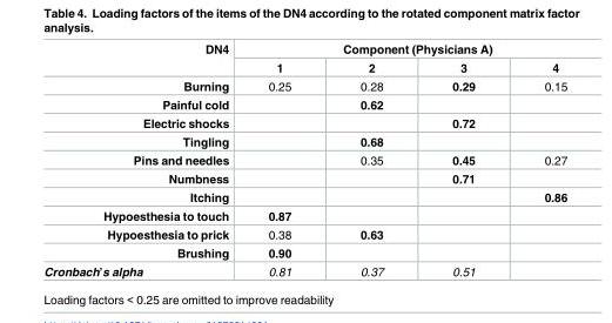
<table><thead><tr><td rowspan="2">DN4</td><td colspan="4">Component (Physicians A)</td></tr><tr><td>1</td><td>2</td><td>3</td><td>4</td></tr></thead><tbody><tr><td>Burning</td><td>0.25</td><td>0.28</td><td>0.29</td><td>0.15</td></tr><tr><td>Painful cold</td><td></td><td>0.62</td><td></td><td></td></tr><tr><td>Electric shocks</td><td></td><td></td><td>0.72</td><td></td></tr><tr><td>Tingling</td><td></td><td>0.68</td><td></td><td></td></tr><tr><td>Pins and needles</td><td></td><td>0.35</td><td>0.45</td><td>0.27</td></tr><tr><td>Numbness</td><td></td><td></td><td>0.71</td><td></td></tr><tr><td>Itching</td><td></td><td></td><td></td><td>0.86</td></tr><tr><td>Hypoesthesia to touch</td><td>0.87</td><td></td><td></td><td></td></tr><tr><td>Hypoesthesia to prick</td><td>0.38</td><td>0.63</td><td></td><td></td></tr><tr><td>Brushing</td><td>0.90</td><td></td><td></td><td></td></tr><tr><td>Cronbach’s alpha</td><td>0.81</td><td>0.37</td><td>0.51</td><td></td></tr></tbody></table>